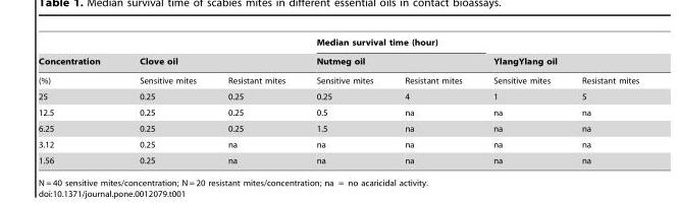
<table><thead><tr><td rowspan="3">Concentration (%)</td><td></td><td></td><td rowspan="2" colspan="2">Median survival time (hour) Nutmeg oil</td><td></td><td></td></tr><tr><td colspan="2">Clove oil</td><td colspan="2">YlangYlang oil</td></tr><tr><td>Sensitive mites</td><td>Resistant mites</td><td>Sensitive mites</td><td>Resistant mites</td><td>Sensitive mites</td><td>Resistant mites</td></tr></thead><tbody><tr><td>25</td><td>0.25</td><td>0.25</td><td>0.25</td><td>4</td><td>1</td><td>5</td></tr><tr><td>12.5</td><td>0.25</td><td>0.25</td><td>0.5</td><td>na</td><td>na</td><td>na</td></tr><tr><td>6.25</td><td>0.25</td><td>0.25</td><td>1.5</td><td>na</td><td>na</td><td>na</td></tr><tr><td>3.12</td><td>0.25</td><td>na</td><td>na</td><td>na</td><td>na</td><td>na</td></tr><tr><td>1.56</td><td>0.25</td><td>na</td><td>na</td><td>na</td><td>na</td><td>na</td></tr></tbody></table>